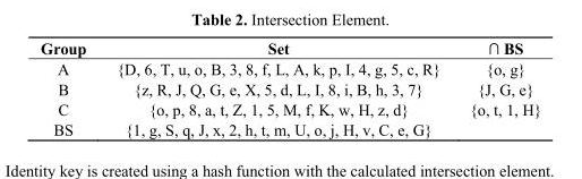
<table><thead><tr><td>Group</td><td>Set</td><td>∩ BS</td></tr></thead><tbody><tr><td>A</td><td>{D, 6, T, u, o, B, 3, 8, f, L, A, k, p, I, 4, g, 5, c, R}</td><td>{o, g}</td></tr><tr><td>B</td><td>{z, R, J, Q, G, e, X, 5, d, L, I, 8, i, B, h, 3, 7}</td><td>{J, G, e}</td></tr><tr><td>C</td><td>{o, p, 8, a, t, Z, 1, 5, M, f, K, w, H, z, d}</td><td>{o, t, 1, H}</td></tr><tr><td>BS</td><td>{1, g, S, q, J, x, 2, h, t, m, U, o, j, H, v, C, e, G}</td><td></td></tr></tbody></table>